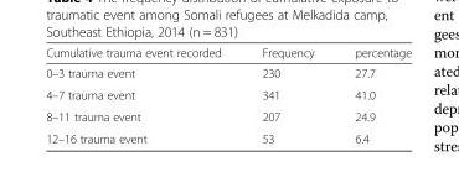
<table><thead><tr><td>Cumulative trauma event recorded</td><td>Frequency</td><td>percentage</td></tr></thead><tbody><tr><td>0–3 trauma event</td><td>230</td><td>27.7</td></tr><tr><td>4–7 trauma event</td><td>341</td><td>41.0</td></tr><tr><td>8–11 trauma event</td><td>207</td><td>24.9</td></tr><tr><td>12–16 trauma event</td><td>53</td><td>6.4</td></tr></tbody></table>